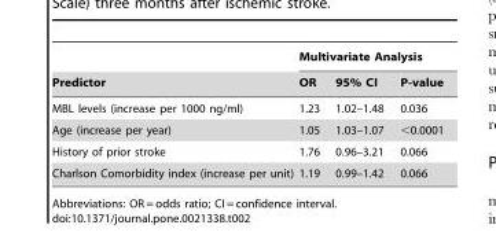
<table><thead><tr><td rowspan="2">Predictor</td><td colspan="3">Multivariate Analysis</td></tr><tr><td>OR</td><td>95% CI</td><td>P-value</td></tr></thead><tbody><tr><td>MBL levels (increase per 1000 ng/ml)</td><td>1.23</td><td>1.02–1.48</td><td>0.036</td></tr><tr><td>Age (increase per year)</td><td>1.05</td><td>1.03–1.07</td><td>&lt;0.0001</td></tr><tr><td>History of prior stroke</td><td>1.76</td><td>0.96–3.21</td><td>0.066</td></tr><tr><td>Charlson Comorbidity index (increase per unit)</td><td>1.19</td><td>0.99–1.42</td><td>0.066</td></tr></tbody></table>